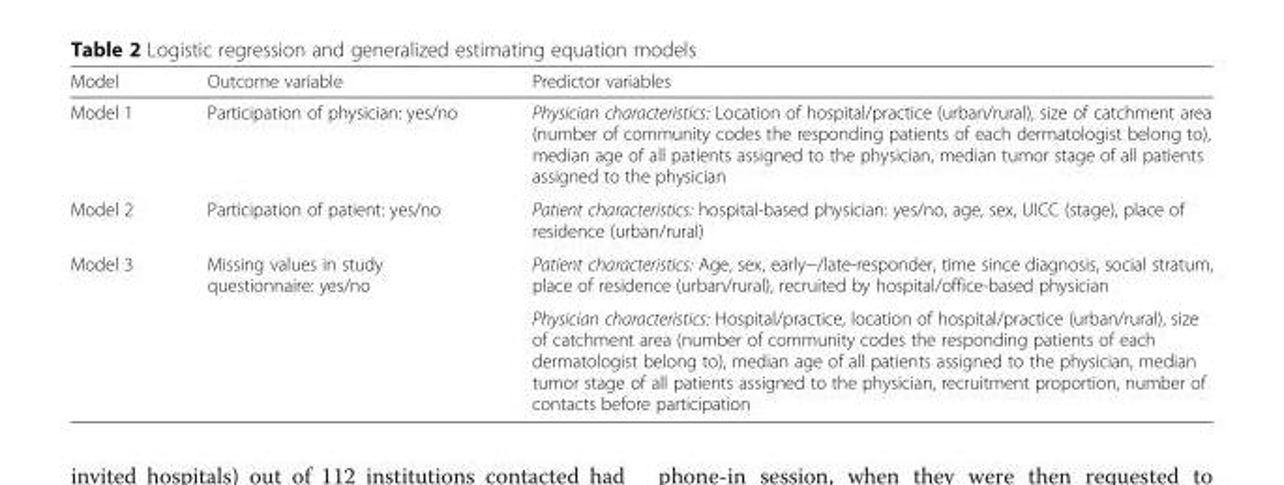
<table><thead><tr><td>Model</td><td>Outcome variable</td><td>Predictor variables</td></tr></thead><tbody><tr><td>Model 1</td><td>Participation of physician: yes/no</td><td>Physician characteristics: Location of hospital/practice (urban/rural), size of catchment area (number of community codes the responding patients of each dermatologist belong to), median age of all patients assigned to the physician, median tumor stage of all patients assigned to the physician</td></tr><tr><td>Model 2</td><td>Participation of patient: yes/no</td><td>Patient characteristics: hospital-based physician: yes/no, age, sex, UICC (stage), place of residence (urban/rural)</td></tr><tr><td rowspan="2">Model 3</td><td rowspan="2">Missing values in study questionnaire: yes/no</td><td>Patient characteristics: Age, sex, early−/late-responder, time since diagnosis, social stratum, place of residence (urban/rural), recruited by hospital/office-based physician</td></tr><tr><td>Physician characteristics: Hospital/practice, location of hospital/practice (urban/rural), size of catchment area (number of community codes the responding patients of each dermatologist belong to), median age of all patients assigned to the physician, median tumor stage of all patients assigned to the physician, recruitment proportion, number of contacts before participation</td></tr></tbody></table>